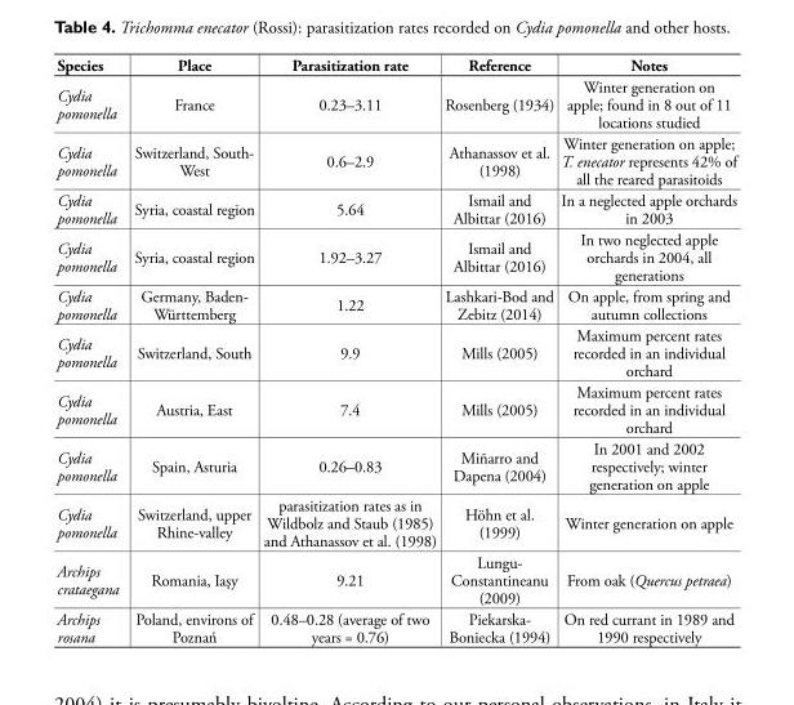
<table><thead><tr><td>Species</td><td>Place</td><td>Parasitization rate</td><td>Reference</td><td>Notes</td></tr></thead><tbody><tr><td>Cydia pomonella</td><td>France</td><td>0.23–3.11</td><td>Rosenberg (1934)</td><td>Winter generation on apple; found in 8 out of 11 locations studied</td></tr><tr><td>Cydia pomonella</td><td>Switzerland, South- West</td><td>0.6–2.9</td><td>Athanassov et al. (1998)</td><td>Winter generation on apple; T. enecator represents 42% of all the reared parasitoids</td></tr><tr><td>Cydia pomonella</td><td>Syria, coastal region</td><td>5.64</td><td>Ismail and Albittar (2016)</td><td>In a neglected apple orchards in 2003</td></tr><tr><td>Cydia pomonella</td><td>Syria, coastal region</td><td>1.92–3.27</td><td>Ismail and Albittar (2016)</td><td>In two neglected apple orchards in 2004, all generations</td></tr><tr><td>Cydia pomonella</td><td>Germany, Baden- Württemberg</td><td>1.22</td><td>Lashkari-Bod and Zebitz (2014)</td><td>On apple, from spring and autumn collections</td></tr><tr><td>Cydia pomonella</td><td>Switzerland, South</td><td>9.9</td><td>Mills (2005)</td><td>Maximum percent rates recorded in an individual orchard</td></tr><tr><td>Cydia pomonella</td><td>Austria, East</td><td>7.4</td><td>Mills (2005)</td><td>Maximum percent rates recorded in an individual orchard</td></tr><tr><td>Cydia pomonella</td><td>Spain, Asturia</td><td>0.26–0.83</td><td>Miñarro and Dapena (2004)</td><td>In 2001 and 2002 respectively; winter generation on apple</td></tr><tr><td>Cydia pomonella</td><td>Switzerland, upper Rhine-valley</td><td>parasitization rates as in Wildbolz and Staub (1985) and Athanassov et al. (1998)</td><td>Höhn et al. (1999)</td><td>Winter generation on apple</td></tr><tr><td>Archips crataegana</td><td>Romania, Iaşy</td><td>9.21</td><td>Lungu- Constantineanu (2009)</td><td>From oak (Quercus petraea)</td></tr><tr><td>Archips rosana</td><td>Poland, environs of Poznań</td><td>0.48–0.28 (average of two years = 0.76)</td><td>Piekarska- Boniecka (1994)</td><td>On red currant in 1989 and 1990 respectively</td></tr></tbody></table>